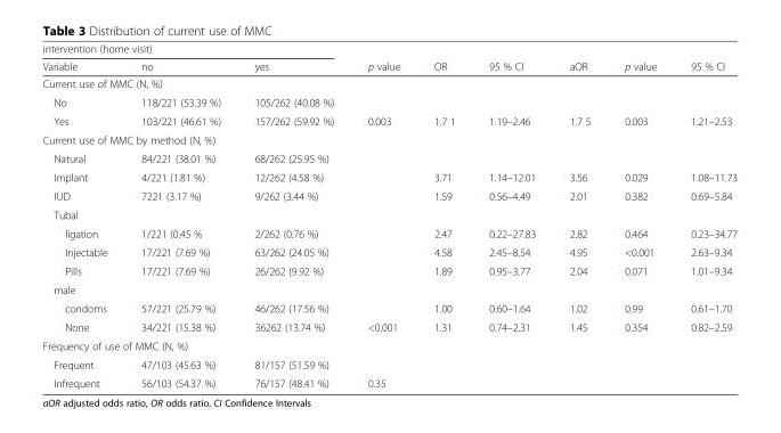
<table><thead><tr><td colspan="3">intervention (home visit)</td><td rowspan="2">p value</td><td rowspan="2">OR</td><td rowspan="2">95 % CI</td><td rowspan="2">aOR</td><td rowspan="2">p value</td><td rowspan="2">95 % CI</td></tr><tr><td>Variable</td><td>no</td><td>yes</td></tr></thead><tbody><tr><td colspan="9">Current use of MMC (N, %)</td></tr><tr><td>No</td><td>118/221 (53.39 %)</td><td>105/262 (40.08 %)</td><td></td><td></td><td></td><td></td><td></td><td></td></tr><tr><td>Yes</td><td>103/221 (46.61 %)</td><td>157/262 (59.92 %)</td><td>0.003</td><td>1.7 1</td><td>1.19–2.46</td><td>1.7 5</td><td>0.003</td><td>1.21–2.53</td></tr><tr><td colspan="9">Current use of MMC by method (N, %)</td></tr><tr><td>Natural</td><td>84/221 (38.01 %)</td><td>68/262 (25.95 %)</td><td></td><td></td><td></td><td></td><td></td><td></td></tr><tr><td>Implant</td><td>4/221 (1.81 %)</td><td>12/262 (4.58 %)</td><td></td><td>3.71</td><td>1.14–12.01</td><td>3.56</td><td>0.029</td><td>1.08–11.73</td></tr><tr><td>IUD</td><td>7221 (3.17 %)</td><td>9/262 (3.44 %)</td><td></td><td>1.59</td><td>0.56–4.49</td><td>2.01</td><td>0.382</td><td>0.69–5.84</td></tr><tr><td colspan="9">Tubal</td></tr><tr><td>ligation</td><td>1/221 (0.45 %</td><td>2/262 (0.76 %)</td><td></td><td>2.47</td><td>0.22–27.83</td><td>2.82</td><td>0.464</td><td>0.23–34.77</td></tr><tr><td>Injectable</td><td>17/221 (7.69 %)</td><td>63/262 (24.05 %)</td><td></td><td>4.58</td><td>2.45–8.54</td><td>4.95</td><td>&lt;0.001</td><td>2.63–9.34</td></tr><tr><td>Pills</td><td>17/221 (7.69 %)</td><td>26/262 (9.92 %)</td><td></td><td>1.89</td><td>0.95–3.77</td><td>2.04</td><td>0.071</td><td>1.01–9.34</td></tr><tr><td colspan="9">male</td></tr><tr><td>condoms</td><td>57/221 (25.79 %)</td><td>46/262 (17.56 %)</td><td></td><td>1.00</td><td>0.60–1.64</td><td>1.02</td><td>0.99</td><td>0.61–1.70</td></tr><tr><td>None</td><td>34/221 (15.38 %)</td><td>36262 (13.74 %)</td><td>&lt;0.001</td><td>1.31</td><td>0.74–2.31</td><td>1.45</td><td>0.354</td><td>0.82–2.59</td></tr><tr><td colspan="9">Frequency of use of MMC (N, %)</td></tr><tr><td>Frequent</td><td>47/103 (45.63 %)</td><td>81/157 (51.59 %)</td><td></td><td></td><td></td><td></td><td></td><td></td></tr><tr><td>Infrequent</td><td>56/103 (54.37 %)</td><td>76/157 (48.41 %)</td><td>0.35</td><td></td><td></td><td></td><td></td><td></td></tr></tbody></table>